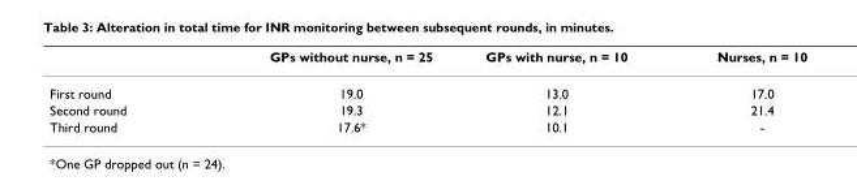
<table><thead><tr><td></td><td>GPs without nurse, n = 25</td><td>GPs with nurse, n = 10</td><td>Nurses, n = 10</td></tr></thead><tbody><tr><td>First round</td><td>19.0</td><td>13.0</td><td>17.0</td></tr><tr><td>Second round</td><td>19.3</td><td>12.1</td><td>21.4</td></tr><tr><td>Third round</td><td>17.6*</td><td>10.1</td><td>-</td></tr></tbody></table>